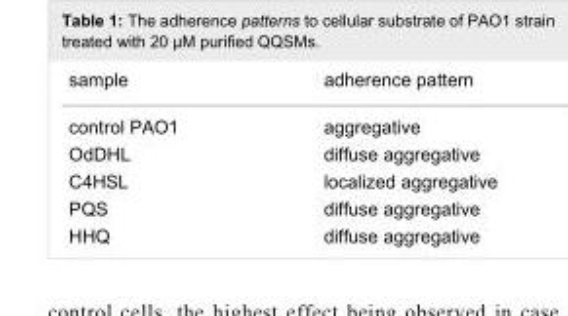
<table><tbody><tr><td>sample</td><td>adherence pattern</td></tr><tr><td>control PAO1</td><td>aggregative</td></tr><tr><td>OdDHL</td><td>diffuse aggregative</td></tr><tr><td>C4HSL</td><td>localized aggregative</td></tr><tr><td>PQS</td><td>diffuse aggregative</td></tr><tr><td>HHQ</td><td>diffuse aggregative</td></tr></tbody></table>